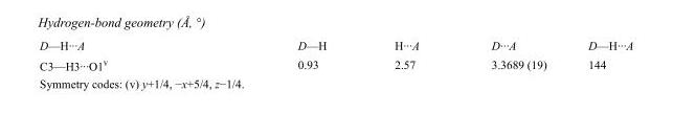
<table><tbody><tr><td>D—H···A</td><td>D—H</td><td>H···A</td><td>D···A</td><td>D—H···A</td></tr><tr><td>C3—H3···O1<sup>v</sup></td><td>0.93</td><td>2.57</td><td>3.3689 (19)</td><td>144</td></tr></tbody></table>